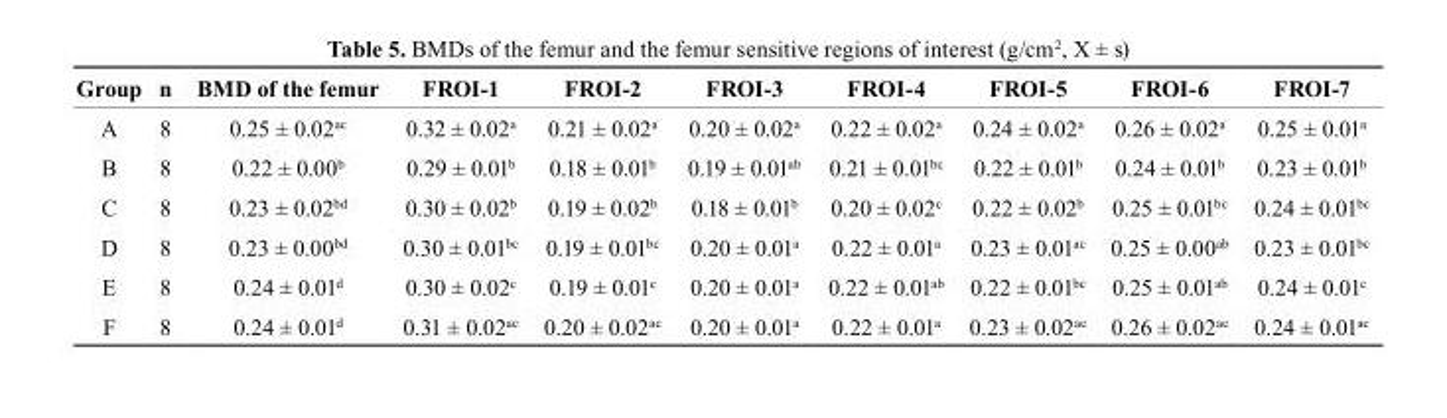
<table><thead><tr><td>Group</td><td>n</td><td>bMD of the femur</td><td>FrOI-1</td><td>FrOI-2</td><td>FrOI-3</td><td>FrOI-4</td><td>FrOI-5</td><td>FrOI-6</td><td>FrOI-7</td></tr></thead><tbody><tr><td>A</td><td>8</td><td>0.25 ± 0.02<sup>ac</sup></td><td>0.32 ± 0.02<sup>a</sup></td><td>0.21 ± 0.02<sup>a</sup></td><td>0.20 ± 0.02<sup>a</sup></td><td>0.22 ± 0.02<sup>a</sup></td><td>0.24 ± 0.02<sup>a</sup></td><td>0.26 ± 0.02<sup>a</sup></td><td>0.25 ± 0.01<sup>a</sup></td></tr><tr><td>B</td><td>8</td><td>0.22 ± 0.00<sup>b</sup></td><td>0.29 ± 0.01<sup>b</sup></td><td>0.18 ± 0.01<sup>b</sup></td><td>0.19 ± 0.01<sup>ab</sup></td><td>0.21 ± 0.01<sup>bc</sup></td><td>0.22 ± 0.01<sup>b</sup></td><td>0.24 ± 0.01<sup>b</sup></td><td>0.23 ± 0.01<sup>b</sup></td></tr><tr><td>C</td><td>8</td><td>0.23 ± 0.02<sup>bd</sup></td><td>0.30 ± 0.02<sup>b</sup></td><td>0.19 ± 0.02<sup>b</sup></td><td>0.18 ± 0.01<sup>b</sup></td><td>0.20 ± 0.02<sup>c</sup></td><td>0.22 ± 0.02<sup>b</sup></td><td>0.25 ± 0.01<sup>bc</sup></td><td>0.24 ± 0.01<sup>bc</sup></td></tr><tr><td>D</td><td>8</td><td>0.23 ± 0.00<sup>bd</sup></td><td>0.30 ± 0.01<sup>bc</sup></td><td>0.19 ± 0.01<sup>bc</sup></td><td>0.20 ± 0.01<sup>a</sup></td><td>0.22 ± 0.01<sup>a</sup></td><td>0.23 ± 0.01<sup>ac</sup></td><td>0.25 ± 0.00<sup>ab</sup></td><td>0.23 ± 0.01<sup>bc</sup></td></tr><tr><td>E</td><td>8</td><td>0.24 ± 0.01<sup>d</sup></td><td>0.30 ± 0.02<sup>c</sup></td><td>0.19 ± 0.01<sup>c</sup></td><td>0.20 ± 0.01<sup>a</sup></td><td>0.22 ± 0.01<sup>ab</sup></td><td>0.22 ± 0.01<sup>bc</sup></td><td>0.25 ± 0.01<sup>ab</sup></td><td>0.24 ± 0.01<sup>c</sup></td></tr><tr><td>F</td><td>8</td><td>0.24 ± 0.01<sup>d</sup></td><td>0.31 ± 0.02<sup>ac</sup></td><td>0.20 ± 0.02<sup>ac</sup></td><td>0.20 ± 0.01<sup>a</sup></td><td>0.22 ± 0.01<sup>a</sup></td><td>0.23 ± 0.02<sup>ac</sup></td><td>0.26 ± 0.02<sup>ac</sup></td><td>0.24 ± 0.01<sup>ac</sup></td></tr></tbody></table>